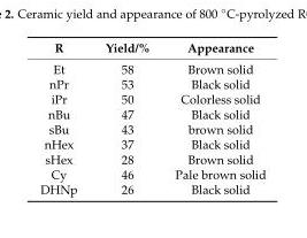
<table><thead><tr><td>R</td><td>Yield/%</td><td>Appearance</td></tr></thead><tbody><tr><td>Et</td><td>58</td><td>Brown solid</td></tr><tr><td>nPr</td><td>53</td><td>Black solid</td></tr><tr><td>iPr</td><td>50</td><td>Colorless solid</td></tr><tr><td>nBu</td><td>47</td><td>Black solid</td></tr><tr><td>sBu</td><td>43</td><td>brown solid</td></tr><tr><td>nHex</td><td>37</td><td>Black solid</td></tr><tr><td>sHex</td><td>28</td><td>Brown solid</td></tr><tr><td>Cy</td><td>46</td><td>Pale brown solid</td></tr><tr><td>DHNp</td><td>26</td><td>Black solid</td></tr></tbody></table>